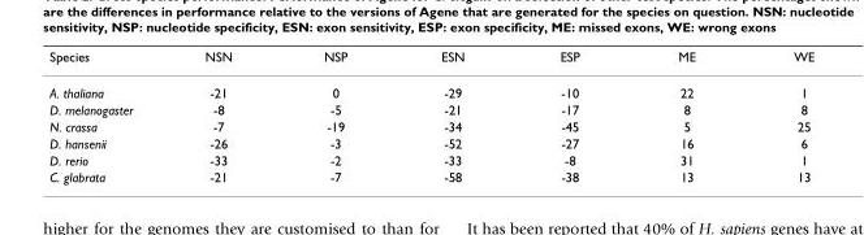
<table><thead><tr><td>Species</td><td>NSN</td><td>NSP</td><td>ESN</td><td>ESP</td><td>ME</td><td>WE</td></tr></thead><tbody><tr><td>A. thaliana</td><td>-21</td><td>0</td><td>-29</td><td>-10</td><td>22</td><td>1</td></tr><tr><td>D. melanogaster</td><td>-8</td><td>-5</td><td>-21</td><td>-17</td><td>8</td><td>8</td></tr><tr><td>N. crassa</td><td>-7</td><td>-19</td><td>-34</td><td>-45</td><td>5</td><td>25</td></tr><tr><td>D. hansenii</td><td>-26</td><td>-3</td><td>-52</td><td>-27</td><td>16</td><td>6</td></tr><tr><td>D. rerio</td><td>-33</td><td>-2</td><td>-33</td><td>-8</td><td>31</td><td>1</td></tr><tr><td>C. glabrata</td><td>-21</td><td>-7</td><td>-58</td><td>-38</td><td>13</td><td>13</td></tr></tbody></table>